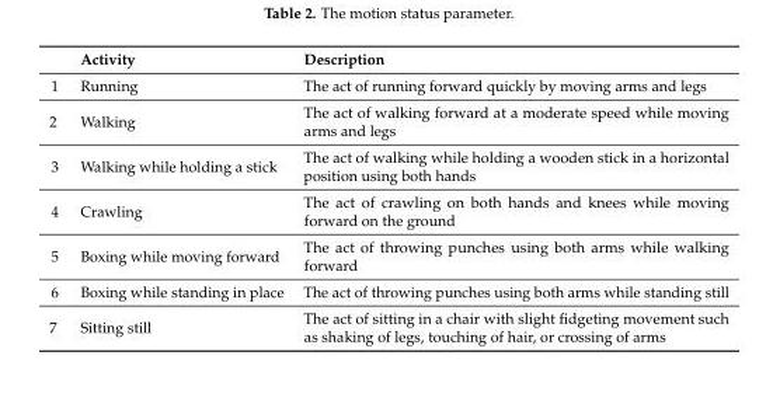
<table><thead><tr><td></td><td>Activity</td><td>Description</td></tr></thead><tbody><tr><td>1</td><td>Running</td><td>The act of running forward quickly by moving arms and legs</td></tr><tr><td>2</td><td>Walking</td><td>The act of walking forward at a moderate speed while moving arms and legs</td></tr><tr><td>3</td><td>Walking while holding a stick</td><td>The act of walking while holding a wooden stick in a horizontal position using both hands</td></tr><tr><td>4</td><td>Crawling</td><td>The act of crawling on both hands and knees while moving forward on the ground</td></tr><tr><td>5</td><td>Boxing while moving forward</td><td>The act of throwing punches using both arms while walking forward</td></tr><tr><td>6</td><td>Boxing while standing in place</td><td>The act of throwing punches using both arms while standing still</td></tr><tr><td>7</td><td>Sitting still</td><td>The act of sitting in a chair with slight fidgeting movement such as shaking of legs, touching of hair, or crossing of arms</td></tr></tbody></table>